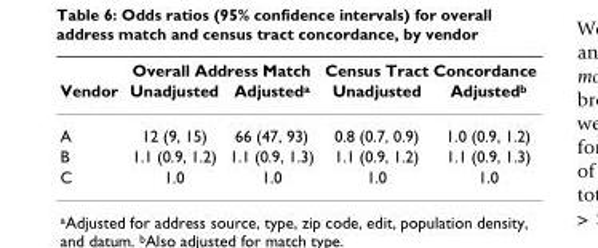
<table><thead><tr><td rowspan="2">Vendor</td><td colspan="2">Overall Address Match</td><td colspan="2">Census Tract Concordance</td></tr><tr><td>Unadjusted</td><td>Adjusted<sup>a</sup></td><td>Unadjusted</td><td>Adjusted<sup>b</sup></td></tr></thead><tbody><tr><td>A</td><td>12 (9, 15)</td><td>66 (47, 93)</td><td>0.8 (0.7, 0.9)</td><td>1.0 (0.9, 1.2)</td></tr><tr><td>B</td><td>1.1 (0.9, 1.2)</td><td>1.1 (0.9, 1.3)</td><td>1.1 (0.9, 1.2)</td><td>1.1 (0.9, 1.3)</td></tr><tr><td>C</td><td>1.0</td><td>1.0</td><td>1.0</td><td>1.0</td></tr></tbody></table>